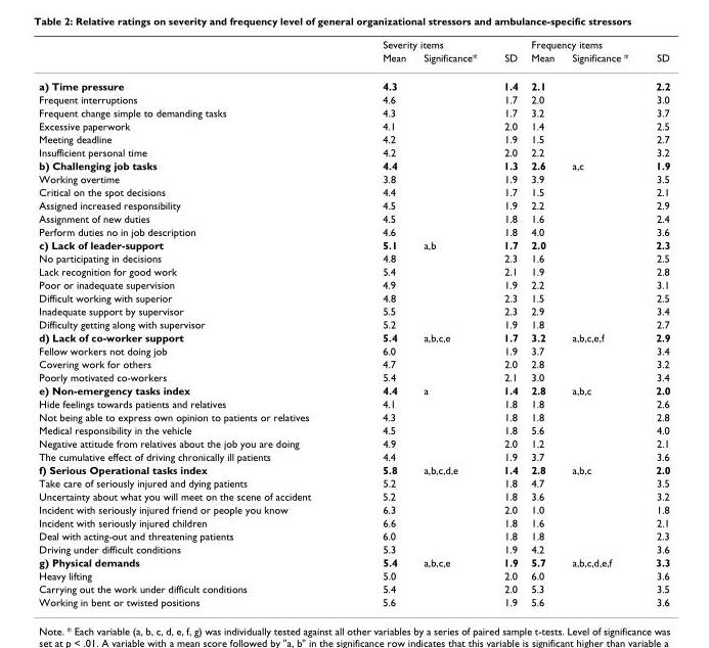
<table><thead><tr><td rowspan="2"></td><td colspan="3">Severity items</td><td colspan="3">Frequency items</td></tr><tr><td>Mean</td><td>Significance*</td><td>SD</td><td>Mean</td><td>Significance *</td><td>SD</td></tr></thead><tbody><tr><td>a) Time pressure</td><td>4.3</td><td></td><td>1.4</td><td>2.1</td><td></td><td>2.2</td></tr><tr><td>Frequent interruptions</td><td>4.6</td><td></td><td>1.7</td><td>2.0</td><td></td><td>3.0</td></tr><tr><td>Frequent change simple to demanding tasks</td><td>4.3</td><td></td><td>1.7</td><td>3.2</td><td></td><td>3.7</td></tr><tr><td>Excessive paperwork</td><td>4.1</td><td></td><td>2.0</td><td>1.4</td><td></td><td>2.5</td></tr><tr><td>Meeting deadline</td><td>4.2</td><td></td><td>1.9</td><td>1.5</td><td></td><td>2.7</td></tr><tr><td>Insufficient personal time</td><td>4.2</td><td></td><td>2.0</td><td>2.2</td><td></td><td>3.2</td></tr><tr><td>b) Challenging job tasks</td><td>4.4</td><td></td><td>1.3</td><td>2.6</td><td>a,c</td><td>1.9</td></tr><tr><td>Working overtime</td><td>3.8</td><td></td><td>1.9</td><td>3.9</td><td></td><td>3.5</td></tr><tr><td>Critical on the spot decisions</td><td>4.4</td><td></td><td>1.7</td><td>1.5</td><td></td><td>2.1</td></tr><tr><td>Assigned increased responsibility</td><td>4.5</td><td></td><td>1.9</td><td>2.2</td><td></td><td>2.9</td></tr><tr><td>Assignment of new duties</td><td>4.5</td><td></td><td>1.8</td><td>1.6</td><td></td><td>2.4</td></tr><tr><td>Perform duties no in job description</td><td>4.6</td><td></td><td>1.8</td><td>4.0</td><td></td><td>3.6</td></tr><tr><td>c) Lack of leader-support</td><td>5.1</td><td>a,b</td><td>1.7</td><td>2.0</td><td></td><td>2.3</td></tr><tr><td>No participating in decisions</td><td>4.8</td><td></td><td>2.3</td><td>1.6</td><td></td><td>2.5</td></tr><tr><td>Lack recognition for good work</td><td>5.4</td><td></td><td>2.1</td><td>1.9</td><td></td><td>2.8</td></tr><tr><td>Poor or inadequate supervision</td><td>4.9</td><td></td><td>1.9</td><td>2.2</td><td></td><td>3.1</td></tr><tr><td>Difficult working with superior</td><td>4.8</td><td></td><td>2.3</td><td>1.5</td><td></td><td>2.5</td></tr><tr><td>Inadequate support by supervisor</td><td>5.5</td><td></td><td>2.3</td><td>2.9</td><td></td><td>3.4</td></tr><tr><td>Difficulty getting along with supervisor</td><td>5.2</td><td></td><td>1.9</td><td>1.8</td><td></td><td>2.7</td></tr><tr><td>d) Lack of co-worker support</td><td>5.4</td><td>a,b,c,e</td><td>1.7</td><td>3.2</td><td>a,b,c,e,f</td><td>2.9</td></tr><tr><td>Fellow workers not doing job</td><td>6.0</td><td></td><td>1.9</td><td>3.7</td><td></td><td>3.4</td></tr><tr><td>Covering work for others</td><td>4.7</td><td></td><td>2.0</td><td>2.8</td><td></td><td>3.2</td></tr><tr><td>Poorly motivated co-workers</td><td>5.4</td><td></td><td>2.1</td><td>3.0</td><td></td><td>3.4</td></tr><tr><td>e) Non-emergency tasks index</td><td>4.4</td><td>a</td><td>1.4</td><td>2.8</td><td>a,b,c</td><td>2.0</td></tr><tr><td>Hide feelings towards patients and relatives</td><td>4.1</td><td></td><td>1.8</td><td>1.8</td><td></td><td>2.6</td></tr><tr><td>Not being able to express own opinion to patients or relatives</td><td>4.3</td><td></td><td>1.8</td><td>1.8</td><td></td><td>2.8</td></tr><tr><td>Medical responsibility in the vehicle</td><td>4.5</td><td></td><td>1.8</td><td>5.6</td><td></td><td>4.0</td></tr><tr><td>Negative attitude from relatives about the job you are doing</td><td>4.9</td><td></td><td>2.0</td><td>1.2</td><td></td><td>2.1</td></tr><tr><td>The cumulative effect of driving chronically ill patients</td><td>4.4</td><td></td><td>1.9</td><td>3.7</td><td></td><td>3.6</td></tr><tr><td>f) Serious Operational tasks index</td><td>5.8</td><td>a,b,c,d,e</td><td>1.4</td><td>2.8</td><td>a,b,c</td><td>2.0</td></tr><tr><td>Take care of seriously injured and dying patients</td><td>5.2</td><td></td><td>1.8</td><td>4.7</td><td></td><td>3.5</td></tr><tr><td>Uncertainty about what you will meet on the scene of accident</td><td>5.2</td><td></td><td>1.8</td><td>3.6</td><td></td><td>3.2</td></tr><tr><td>Incident with seriously injured friend or people you know</td><td>6.3</td><td></td><td>2.0</td><td>1.0</td><td></td><td>1.8</td></tr><tr><td>Incident with seriously injured children</td><td>6.6</td><td></td><td>1.8</td><td>1.6</td><td></td><td>2.1</td></tr><tr><td>Deal with acting-out and threatening patients</td><td>6.0</td><td></td><td>1.8</td><td>1.8</td><td></td><td>2.3</td></tr><tr><td>Driving under difficult conditions</td><td>5.3</td><td></td><td>1.9</td><td>4.2</td><td></td><td>3.6</td></tr><tr><td>g) Physical demands</td><td>5.4</td><td>a,b,c,e</td><td>1.9</td><td>5.7</td><td>a,b,c,d,e,f</td><td>3.3</td></tr><tr><td>Heavy lifting</td><td>5.0</td><td></td><td>2.0</td><td>6.0</td><td></td><td>3.6</td></tr><tr><td>Carrying out the work under difficult conditions</td><td>5.4</td><td></td><td>2.0</td><td>5.3</td><td></td><td>3.5</td></tr><tr><td>Working in bent or twisted positions</td><td>5.6</td><td></td><td>1.9</td><td>5.6</td><td></td><td>3.6</td></tr></tbody></table>